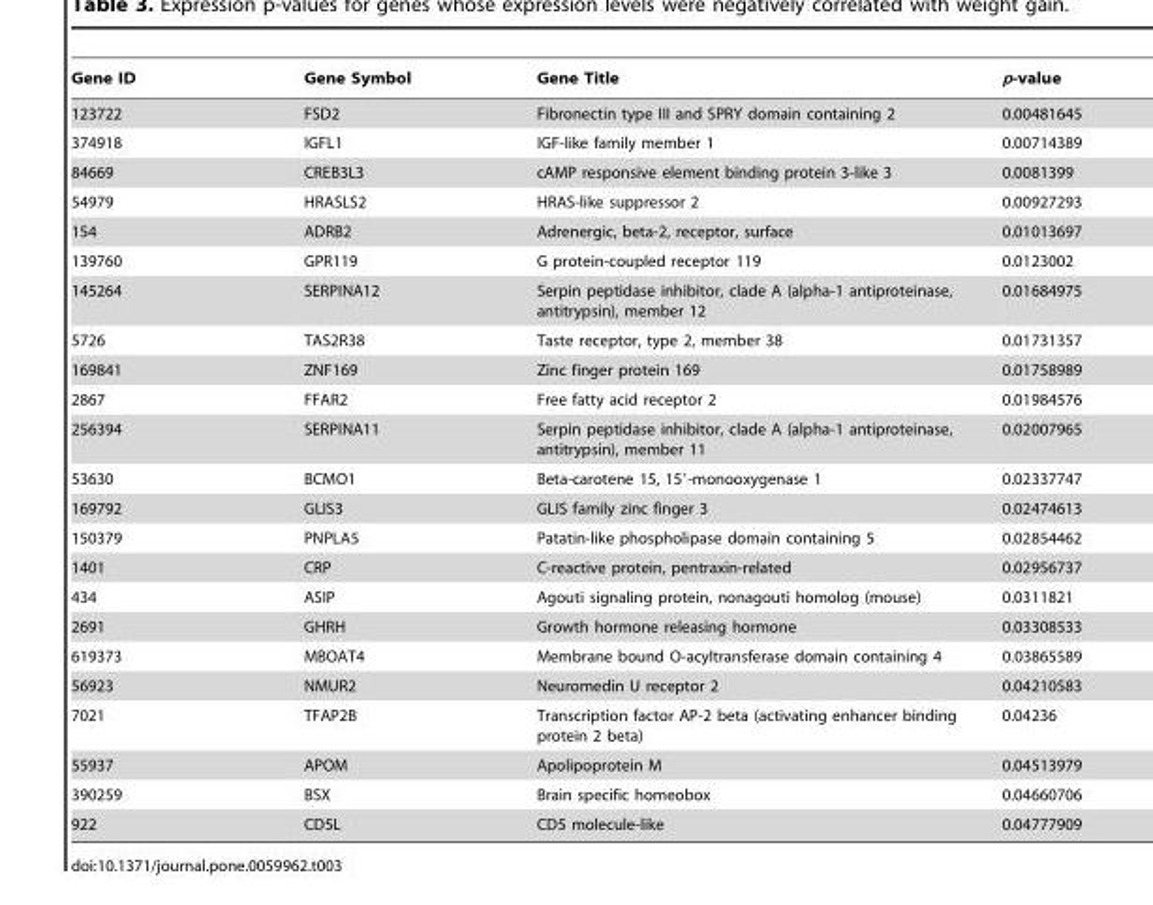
<table><thead><tr><td>Gene ID</td><td>Gene Symbol</td><td>Gene Title</td><td>p-value</td></tr></thead><tbody><tr><td>123722</td><td>FSD2</td><td>Fibronectin type III and SPRY domain containing 2</td><td>0.00481645</td></tr><tr><td>374918</td><td>IGFL1</td><td>IGF-like family member 1</td><td>0.00714389</td></tr><tr><td>84669</td><td>CREB3L3</td><td>cAMP responsive element binding protein 3-like 3</td><td>0.0081399</td></tr><tr><td>54979</td><td>HRASLS2</td><td>HRAS-like suppressor 2</td><td>0.00927293</td></tr><tr><td>154</td><td>ADRB2</td><td>Adrenergic, beta-2, receptor, surface</td><td>0.01013697</td></tr><tr><td>139760</td><td>GPR119</td><td>G protein-coupled receptor 119</td><td>0.0123002</td></tr><tr><td>145264</td><td>SERPINA12</td><td>Serpin peptidase inhibitor, clade A (alpha-1 antiproteinase, antitrypsin), member 12</td><td>0.01684975</td></tr><tr><td>5726</td><td>TAS2R38</td><td>Taste receptor, type 2, member 38</td><td>0.01731357</td></tr><tr><td>169841</td><td>ZNF169</td><td>Zinc finger protein 169</td><td>0.01758989</td></tr><tr><td>2867</td><td>FFAR2</td><td>Free fatty acid receptor 2</td><td>0.01984576</td></tr><tr><td>256394</td><td>SERPINA11</td><td>Serpin peptidase inhibitor, clade A (alpha-1 antiproteinase, antitrypsin), member 11</td><td>0.02007965</td></tr><tr><td>53630</td><td>BCMO1</td><td>Beta-carotene 15, 15′-monooxygenase 1</td><td>0.02337747</td></tr><tr><td>169792</td><td>GLIS3</td><td>GLIS family zinc finger 3</td><td>0.02474613</td></tr><tr><td>150379</td><td>PNPLA5</td><td>Patatin-like phospholipase domain containing 5</td><td>0.02854462</td></tr><tr><td>1401</td><td>CRP</td><td>C-reactive protein, pentraxin-related</td><td>0.02956737</td></tr><tr><td>434</td><td>ASIP</td><td>Agouti signaling protein, nonagouti homolog (mouse)</td><td>0.0311821</td></tr><tr><td>2691</td><td>GHRH</td><td>Growth hormone releasing hormone</td><td>0.03308533</td></tr><tr><td>619373</td><td>MBOAT4</td><td>Membrane bound O-acyltransferase domain containing 4</td><td>0.03865589</td></tr><tr><td>56923</td><td>NMUR2</td><td>Neuromedin U receptor 2</td><td>0.04210583</td></tr><tr><td>7021</td><td>TFAP2B</td><td>Transcription factor AP-2 beta (activating enhancer binding protein 2 beta)</td><td>0.04236</td></tr><tr><td>55937</td><td>APOM</td><td>Apolipoprotein M</td><td>0.04513979</td></tr><tr><td>390259</td><td>BSX</td><td>Brain specific homeobox</td><td>0.04660706</td></tr><tr><td>922</td><td>CD5L</td><td>CD5 molecule-like</td><td>0.04777909</td></tr></tbody></table>